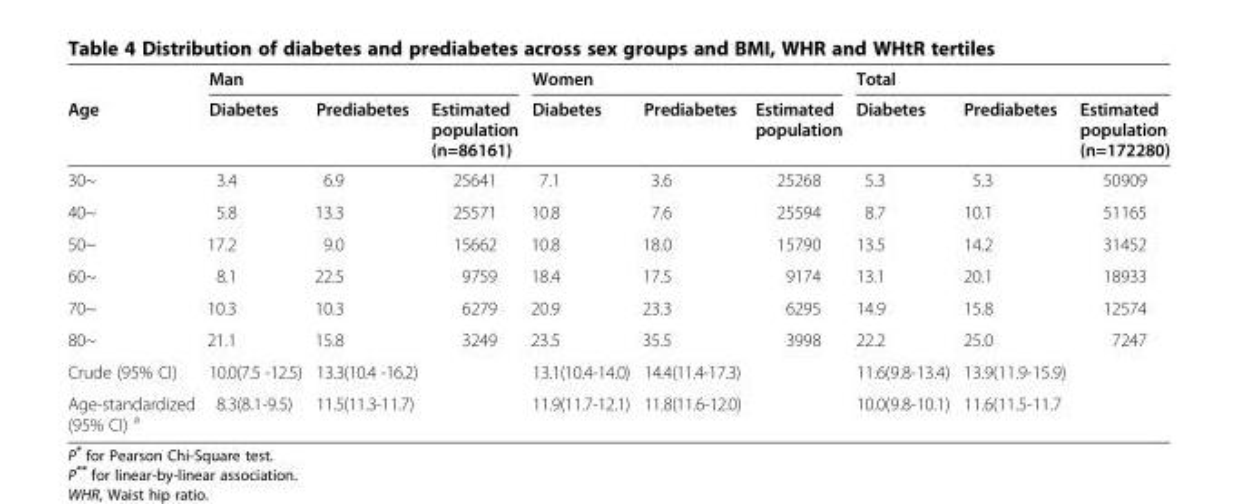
<table><thead><tr><td rowspan="2">Age</td><td rowspan="2">Man Diabetes</td><td rowspan="2">Prediabetes</td><td rowspan="2">Estimated population (n=86161)</td><td rowspan="2">Women Diabetes</td><td rowspan="2">Prediabetes</td><td rowspan="2">Estimated population</td><td rowspan="2">Total Diabetes</td><td rowspan="2">Prediabetes</td><td rowspan="2">Estimated population (n=172280)</td></tr><tr></tr></thead><tbody><tr><td>30~</td><td>3.4</td><td>6.9</td><td>25641</td><td>7.1</td><td>3.6</td><td>25268</td><td>5.3</td><td>5.3</td><td>50909</td></tr><tr><td>40~</td><td>5.8</td><td>13.3</td><td>25571</td><td>10.8</td><td>7.6</td><td>25594</td><td>8.7</td><td>10.1</td><td>51165</td></tr><tr><td>50~</td><td>17.2</td><td>9.0</td><td>15662</td><td>10.8</td><td>18.0</td><td>15790</td><td>13.5</td><td>14.2</td><td>31452</td></tr><tr><td>60~</td><td>8.1</td><td>22.5</td><td>9759</td><td>18.4</td><td>17.5</td><td>9174</td><td>13.1</td><td>20.1</td><td>18933</td></tr><tr><td>70~</td><td>10.3</td><td>10.3</td><td>6279</td><td>20.9</td><td>23.3</td><td>6295</td><td>14.9</td><td>15.8</td><td>12574</td></tr><tr><td>80~</td><td>21.1</td><td>15.8</td><td>3249</td><td>23.5</td><td>35.5</td><td>3998</td><td>22.2</td><td>25.0</td><td>7247</td></tr><tr><td>Crude (95% CI)</td><td>10.0(7.5 -12.5)</td><td>13.3(10.4 -16.2)</td><td></td><td>13.1(10.4-14.0)</td><td>14.4(11.4-17.3)</td><td></td><td>11.6(9.8-13.4)</td><td>13.9(11.9-15.9)</td><td></td></tr><tr><td>Age-standardized (95% CI) <sup>a</sup></td><td>8.3(8.1-9.5)</td><td>11.5(11.3-11.7)</td><td></td><td>11.9(11.7-12.1)</td><td>11.8(11.6-12.0)</td><td></td><td>10.0(9.8-10.1)</td><td>11.6(11.5-11.7</td><td></td></tr></tbody></table>